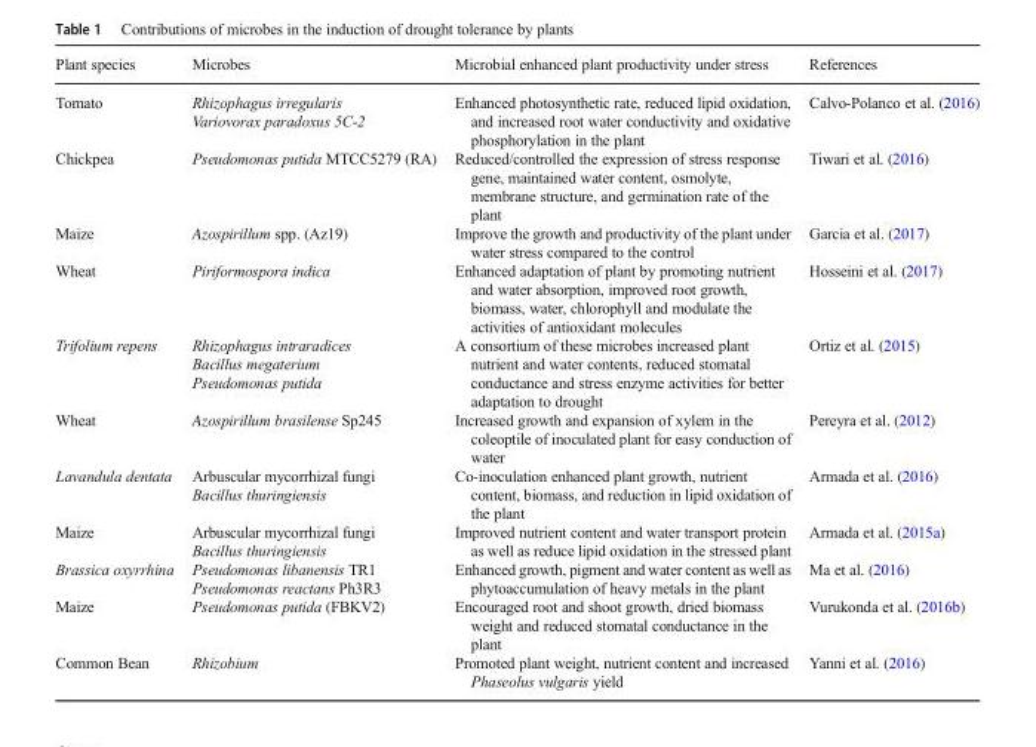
<table><thead><tr><td>Plant species</td><td>Microbes</td><td>Microbial enhanced plant productivity under stress</td><td>References</td></tr></thead><tbody><tr><td>Tomato</td><td>Rhizophagus irregularis Variovorax paradoxus 5C-2</td><td>Enhanced photosynthetic rate, reduced lipid oxidation, and increased root water conductivity and oxidative phosphorylation in the plant</td><td>Calvo-Polanco et al. (2016)</td></tr><tr><td>Chickpea</td><td>Pseudomonas putida MTCC5279 (RA)</td><td>Reduced/controlled the expression of stress response gene, maintained water content, osmolyte, membrane structure, and germination rate of the plant</td><td>Tiwari et al. (2016)</td></tr><tr><td>Maize</td><td>Azospirillum spp. (Az19)</td><td>Improve the growth and productivity of the plant under water stress compared to the control</td><td>Garcia et al. (2017)</td></tr><tr><td>Wheat</td><td>Piriformospora indica</td><td>Enhanced adaptation of plant by promoting nutrient and water absorption, improved root growth, biomass, water, chlorophyll and modulate the activities of antioxidant molecules</td><td>Hosseini et al. (2017)</td></tr><tr><td>Trifolium repens</td><td>Rhizophagus intraradices Bacillus megaterium Pseudomonas putida</td><td>A consortium of these microbes increased plant nutrient and water contents, reduced stomatal conductance and stress enzyme activities for better adaptation to drought</td><td>Ortiz et al. (2015)</td></tr><tr><td>Wheat</td><td>Azospirillum brasilense Sp245</td><td>Increased growth and expansion of xylem in the coleoptile of inoculated plant for easy conduction of water</td><td>Pereyra et al. (2012)</td></tr><tr><td>Lavandula dentata</td><td>Arbuscular mycorrhizal fungi Bacillus thuringiensis</td><td>Co-inoculation enhanced plant growth, nutrient content, biomass, and reduction in lipid oxidation of the plant</td><td>Armada et al. (2016)</td></tr><tr><td>Maize</td><td>Arbuscular mycorrhizal fungi Bacillus thuringiensis</td><td>Improved nutrient content and water transport protein as well as reduce lipid oxidation in the stressed plant</td><td>Armada et al. (2015a)</td></tr><tr><td>Brassica oxyrrhina</td><td>Pseudomonas libanensis TR1 Pseudomonas reactans Ph3R3</td><td>Enhanced growth, pigment and water content as well as phytoaccumulation of heavy metals in the plant</td><td>Ma et al. (2016)</td></tr><tr><td>Maize</td><td>Pseudomonas putida (FBKV2)</td><td>Encouraged root and shoot growth, dried biomass weight and reduced stomatal conductance in the plant</td><td>Vurukonda et al. (2016b)</td></tr><tr><td>Common Bean</td><td>Rhizobium</td><td>Promoted plant weight, nutrient content and increased Phaseolus vulgaris yield</td><td>Yanni et al. (2016)</td></tr></tbody></table>